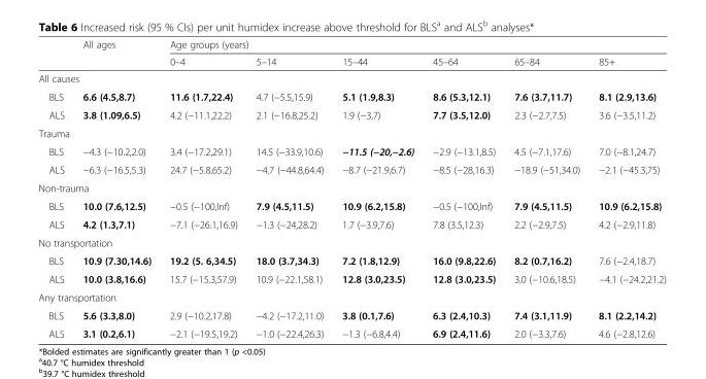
<table><thead><tr><td rowspan="2"></td><td rowspan="2">All ages</td><td colspan="6">Age groups (years)</td></tr><tr><td>0–4</td><td>5–14</td><td>15–44</td><td>45–64</td><td>65–84</td><td>85+</td></tr></thead><tbody><tr><td colspan="8">All causes</td></tr><tr><td>BLS</td><td>6.6 (4.5,8.7)</td><td>11.6 (1.7,22.4)</td><td>4.7 (−5.5,15.9)</td><td>5.1 (1.9,8.3)</td><td>8.6 (5.3,12.1)</td><td>7.6 (3.7,11.7)</td><td>8.1 (2.9,13.6)</td></tr><tr><td>ALS</td><td>3.8 (1.09,6.5)</td><td>4.2 (−11.1,22.2)</td><td>2.1 (−16.8,25.2)</td><td>1.9 (−3,7)</td><td>7.7 (3.5,12.0)</td><td>2.3 (−2.7,7.5)</td><td>3.6 (−3.5,11.2)</td></tr><tr><td colspan="8">Trauma</td></tr><tr><td>BLS</td><td>−4.3 (−10.2,2.0)</td><td>3.4 (−17.2,29.1)</td><td>14.5 (−33.9,10.6)</td><td>−11.5 (−20,−2.6)</td><td>−2.9 (−13.1,8.5)</td><td>4.5 (−7.1,17.6)</td><td>7.0 (−8.1,24.7)</td></tr><tr><td>ALS</td><td>−6.3 (−16.5,5.3)</td><td>24.7 (−5.8,65.2)</td><td>−4.7 (−44.8,64.4)</td><td>−8.7 (−21.9,6.7)</td><td>−8.5 (−28,16.3)</td><td>−18.9 (−51,34.0)</td><td>−2.1 (−45.3,75)</td></tr><tr><td colspan="8">Non-trauma</td></tr><tr><td>BLS</td><td>10.0 (7.6,12.5)</td><td>−0.5 (−100,Inf)</td><td>7.9 (4.5,11.5)</td><td>10.9 (6.2,15.8)</td><td>−0.5 (−100,Inf)</td><td>7.9 (4.5,11.5)</td><td>10.9 (6.2,15.8)</td></tr><tr><td>ALS</td><td>4.2 (1.3,7.1)</td><td>−7.1 (−26.1,16.9)</td><td>−1.3 (−24,28.2)</td><td>1.7 (−3.9,7.6)</td><td>7.8 (3.5,12.3)</td><td>2.2 (−2.9,7.5)</td><td>4.2 (−2.9,11.8)</td></tr><tr><td colspan="8">No transportation</td></tr><tr><td>BLS</td><td>10.9 (7.30,14.6)</td><td>19.2 (5. 6,34.5)</td><td>18.0 (3.7,34.3)</td><td>7.2 (1.8,12.9)</td><td>16.0 (9.8,22.6)</td><td>8.2 (0.7,16.2)</td><td>7.6 (−2.4,18.7)</td></tr><tr><td>ALS</td><td>10.0 (3.8,16.6)</td><td>15.7 (−15.3,57.9)</td><td>10.9 (−22.1,58.1)</td><td>12.8 (3.0,23.5)</td><td>12.8 (3.0,23.5)</td><td>3.0 (−10.6,18.5)</td><td>−4.1 (−24.2,21.2)</td></tr><tr><td colspan="8">Any transportation</td></tr><tr><td>BLS</td><td>5.6 (3.3,8.0)</td><td>2.9 (−10.2,17.8)</td><td>−4.2 (−17.2,11.0)</td><td>3.8 (0.1,7.6)</td><td>6.3 (2.4,10.3)</td><td>7.4 (3.1,11.9)</td><td>8.1 (2.2,14.2)</td></tr><tr><td>ALS</td><td>3.1 (0.2,6.1)</td><td>−2.1 (−19.5,19.2)</td><td>−1.0 (−22.4,26.3)</td><td>−1.3 (−6.8,4.4)</td><td>6.9 (2.4,11.6)</td><td>2.0 (−3.3,7.6)</td><td>4.6 (−2.8,12.6)</td></tr></tbody></table>